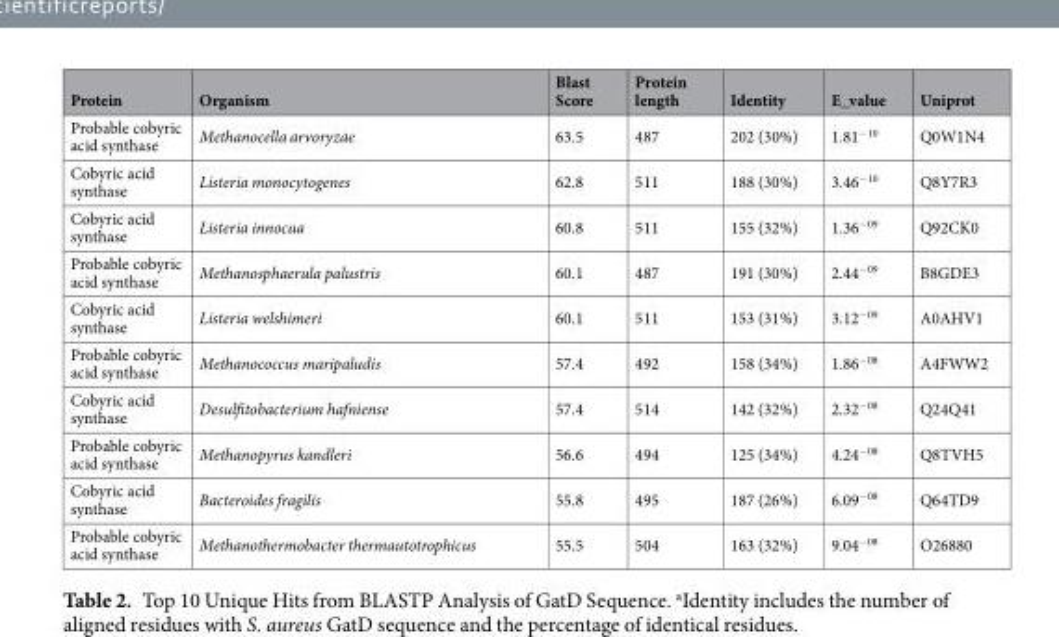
<table><thead><tr><td>Protein</td><td>Organism</td><td>Blast Score</td><td>Protein length</td><td>Identity</td><td>E_value</td><td>Uniprot</td></tr></thead><tbody><tr><td>Probable cobyric acid synthase</td><td>Methanocella arvoryzae</td><td>63.5</td><td>487</td><td>202 (30%)</td><td>1.81<sup>−10</sup></td><td>Q0W1N4</td></tr><tr><td>Cobyric acid synthase</td><td>Listeria monocytogenes</td><td>62.8</td><td>511</td><td>188 (30%)</td><td>3.46<sup>−10</sup></td><td>Q8Y7R3</td></tr><tr><td>Cobyric acid synthase</td><td>Listeria innocua</td><td>60.8</td><td>511</td><td>155 (32%)</td><td>1.36<sup>−09</sup></td><td>Q92CK0</td></tr><tr><td>Probable cobyric acid synthase</td><td>Methanosphaerula palustris</td><td>60.1</td><td>487</td><td>191 (30%)</td><td>2.44<sup>−09</sup></td><td>B8GDE3</td></tr><tr><td>Cobyric acid synthase</td><td>Listeria welshimeri</td><td>60.1</td><td>511</td><td>153 (31%)</td><td>3.12<sup>−09</sup></td><td>A0AHV1</td></tr><tr><td>Probable cobyric acid synthase</td><td>Methanococcus maripaludis</td><td>57.4</td><td>492</td><td>158 (34%)</td><td>1.86<sup>−08</sup></td><td>A4FWW2</td></tr><tr><td>Cobyric acid synthase</td><td>Desulfitobacterium hafniense</td><td>57.4</td><td>514</td><td>142 (32%)</td><td>2.32<sup>−08</sup></td><td>Q24Q41</td></tr><tr><td>Probable cobyric acid synthase</td><td>Methanopyrus kandleri</td><td>56.6</td><td>494</td><td>125 (34%)</td><td>4.24<sup>−08</sup></td><td>Q8TVH5</td></tr><tr><td>Cobyric acid synthase</td><td>Bacteroides fragilis</td><td>55.8</td><td>495</td><td>187 (26%)</td><td>6.09<sup>−08</sup></td><td>Q64TD9</td></tr><tr><td>Probable cobyric acid synthase</td><td>Methanothermobacter thermautotrophicus</td><td>55.5</td><td>504</td><td>163 (32%)</td><td>9.04<sup>−08</sup></td><td>O26880</td></tr></tbody></table>